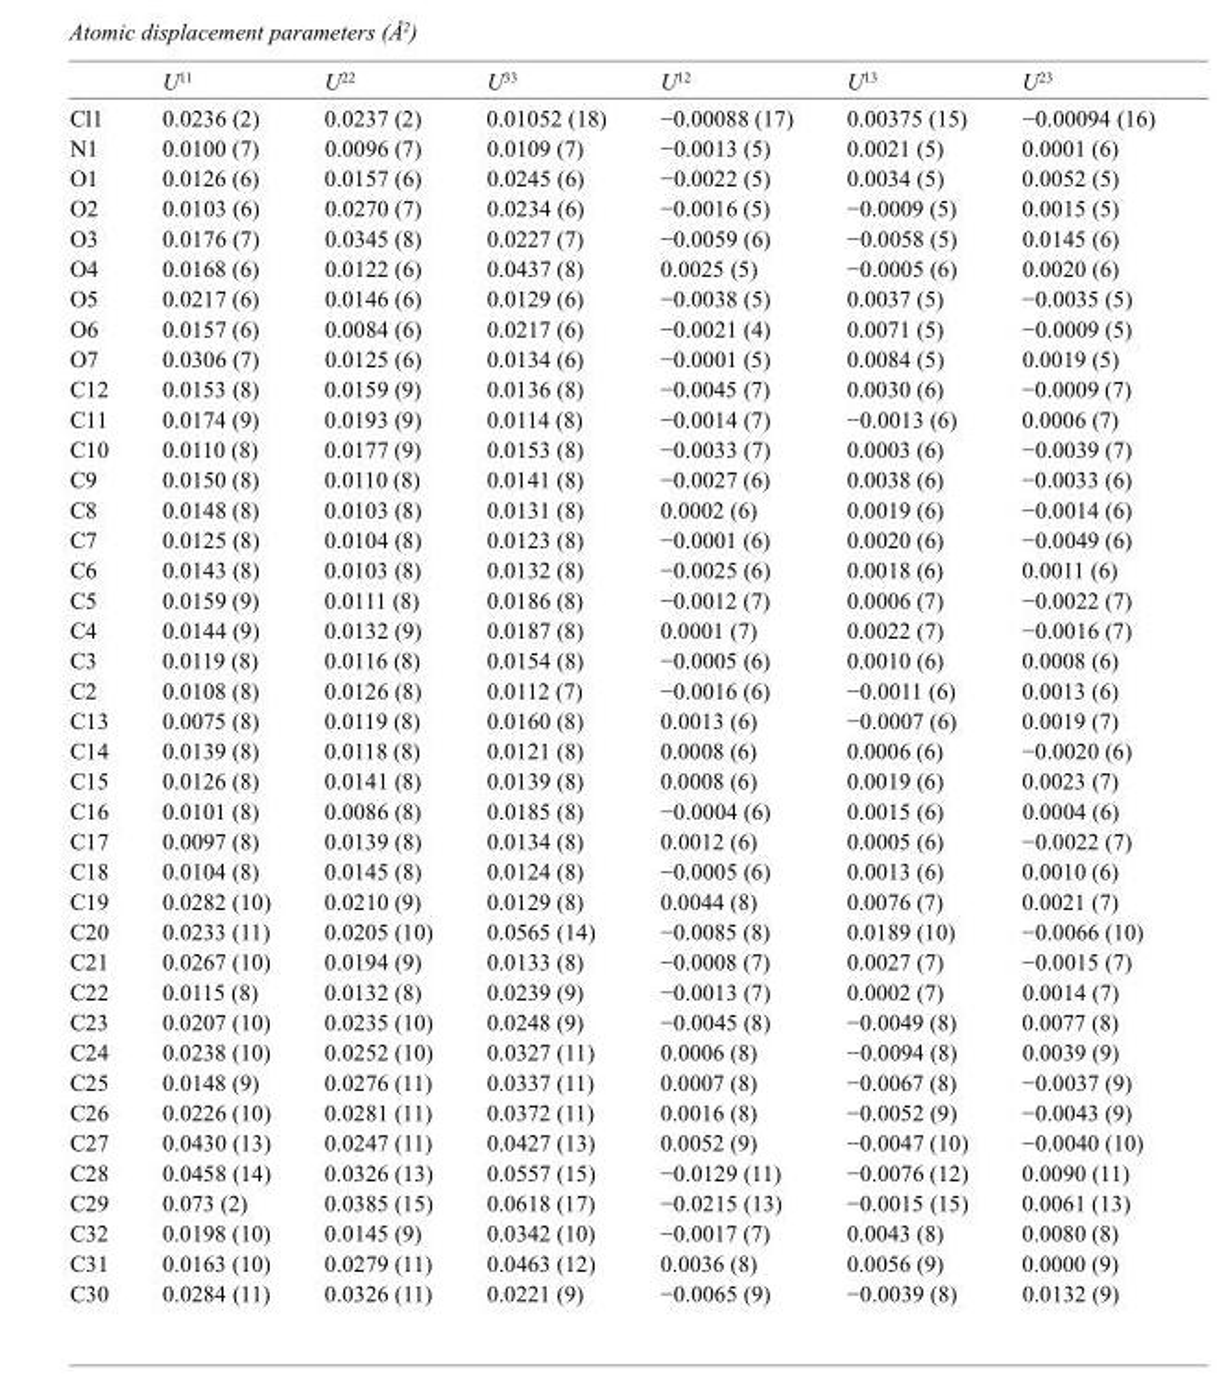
<table><thead><tr><td></td><td>U<sup>11</sup></td><td>U<sup>22</sup></td><td>U<sup>33</sup></td><td>U<sup>12</sup></td><td>U<sup>13</sup></td><td>U<sup>23</sup></td></tr></thead><tbody><tr><td>Cl1</td><td>0.0236 (2)</td><td>0.0237 (2)</td><td>0.01052 (18)</td><td>−0.00088 (17)</td><td>0.00375 (15)</td><td>−0.00094 (16)</td></tr><tr><td>N1</td><td>0.0100 (7)</td><td>0.0096 (7)</td><td>0.0109 (7)</td><td>−0.0013 (5)</td><td>0.0021 (5)</td><td>0.0001 (6)</td></tr><tr><td>O1</td><td>0.0126 (6)</td><td>0.0157 (6)</td><td>0.0245 (6)</td><td>−0.0022 (5)</td><td>0.0034 (5)</td><td>0.0052 (5)</td></tr><tr><td>O2</td><td>0.0103 (6)</td><td>0.0270 (7)</td><td>0.0234 (6)</td><td>−0.0016 (5)</td><td>−0.0009 (5)</td><td>0.0015 (5)</td></tr><tr><td>O3</td><td>0.0176 (7)</td><td>0.0345 (8)</td><td>0.0227 (7)</td><td>−0.0059 (6)</td><td>−0.0058 (5)</td><td>0.0145 (6)</td></tr><tr><td>O4</td><td>0.0168 (6)</td><td>0.0122 (6)</td><td>0.0437 (8)</td><td>0.0025 (5)</td><td>−0.0005 (6)</td><td>0.0020 (6)</td></tr><tr><td>O5</td><td>0.0217 (6)</td><td>0.0146 (6)</td><td>0.0129 (6)</td><td>−0.0038 (5)</td><td>0.0037 (5)</td><td>−0.0035 (5)</td></tr><tr><td>O6</td><td>0.0157 (6)</td><td>0.0084 (6)</td><td>0.0217 (6)</td><td>−0.0021 (4)</td><td>0.0071 (5)</td><td>−0.0009 (5)</td></tr><tr><td>O7</td><td>0.0306 (7)</td><td>0.0125 (6)</td><td>0.0134 (6)</td><td>−0.0001 (5)</td><td>0.0084 (5)</td><td>0.0019 (5)</td></tr><tr><td>C12</td><td>0.0153 (8)</td><td>0.0159 (9)</td><td>0.0136 (8)</td><td>−0.0045 (7)</td><td>0.0030 (6)</td><td>−0.0009 (7)</td></tr><tr><td>C11</td><td>0.0174 (9)</td><td>0.0193 (9)</td><td>0.0114 (8)</td><td>−0.0014 (7)</td><td>−0.0013 (6)</td><td>0.0006 (7)</td></tr><tr><td>C10</td><td>0.0110 (8)</td><td>0.0177 (9)</td><td>0.0153 (8)</td><td>−0.0033 (7)</td><td>0.0003 (6)</td><td>−0.0039 (7)</td></tr><tr><td>C9</td><td>0.0150 (8)</td><td>0.0110 (8)</td><td>0.0141 (8)</td><td>−0.0027 (6)</td><td>0.0038 (6)</td><td>−0.0033 (6)</td></tr><tr><td>C8</td><td>0.0148 (8)</td><td>0.0103 (8)</td><td>0.0131 (8)</td><td>0.0002 (6)</td><td>0.0019 (6)</td><td>−0.0014 (6)</td></tr><tr><td>C7</td><td>0.0125 (8)</td><td>0.0104 (8)</td><td>0.0123 (8)</td><td>−0.0001 (6)</td><td>0.0020 (6)</td><td>−0.0049 (6)</td></tr><tr><td>C6</td><td>0.0143 (8)</td><td>0.0103 (8)</td><td>0.0132 (8)</td><td>−0.0025 (6)</td><td>0.0018 (6)</td><td>0.0011 (6)</td></tr><tr><td>C5</td><td>0.0159 (9)</td><td>0.0111 (8)</td><td>0.0186 (8)</td><td>−0.0012 (7)</td><td>0.0006 (7)</td><td>−0.0022 (7)</td></tr><tr><td>C4</td><td>0.0144 (9)</td><td>0.0132 (9)</td><td>0.0187 (8)</td><td>0.0001 (7)</td><td>0.0022 (7)</td><td>−0.0016 (7)</td></tr><tr><td>C3</td><td>0.0119 (8)</td><td>0.0116 (8)</td><td>0.0154 (8)</td><td>−0.0005 (6)</td><td>0.0010 (6)</td><td>0.0008 (6)</td></tr><tr><td>C2</td><td>0.0108 (8)</td><td>0.0126 (8)</td><td>0.0112 (7)</td><td>−0.0016 (6)</td><td>−0.0011 (6)</td><td>0.0013 (6)</td></tr><tr><td>C13</td><td>0.0075 (8)</td><td>0.0119 (8)</td><td>0.0160 (8)</td><td>0.0013 (6)</td><td>−0.0007 (6)</td><td>0.0019 (7)</td></tr><tr><td>C14</td><td>0.0139 (8)</td><td>0.0118 (8)</td><td>0.0121 (8)</td><td>0.0008 (6)</td><td>0.0006 (6)</td><td>−0.0020 (6)</td></tr><tr><td>C15</td><td>0.0126 (8)</td><td>0.0141 (8)</td><td>0.0139 (8)</td><td>0.0008 (6)</td><td>0.0019 (6)</td><td>0.0023 (7)</td></tr><tr><td>C16</td><td>0.0101 (8)</td><td>0.0086 (8)</td><td>0.0185 (8)</td><td>−0.0004 (6)</td><td>0.0015 (6)</td><td>0.0004 (6)</td></tr><tr><td>C17</td><td>0.0097 (8)</td><td>0.0139 (8)</td><td>0.0134 (8)</td><td>0.0012 (6)</td><td>0.0005 (6)</td><td>−0.0022 (7)</td></tr><tr><td>C18</td><td>0.0104 (8)</td><td>0.0145 (8)</td><td>0.0124 (8)</td><td>−0.0005 (6)</td><td>0.0013 (6)</td><td>0.0010 (6)</td></tr><tr><td>C19</td><td>0.0282 (10)</td><td>0.0210 (9)</td><td>0.0129 (8)</td><td>0.0044 (8)</td><td>0.0076 (7)</td><td>0.0021 (7)</td></tr><tr><td>C20</td><td>0.0233 (11)</td><td>0.0205 (10)</td><td>0.0565 (14)</td><td>−0.0085 (8)</td><td>0.0189 (10)</td><td>−0.0066 (10)</td></tr><tr><td>C21</td><td>0.0267 (10)</td><td>0.0194 (9)</td><td>0.0133 (8)</td><td>−0.0008 (7)</td><td>0.0027 (7)</td><td>−0.0015 (7)</td></tr><tr><td>C22</td><td>0.0115 (8)</td><td>0.0132 (8)</td><td>0.0239 (9)</td><td>−0.0013 (7)</td><td>0.0002 (7)</td><td>0.0014 (7)</td></tr><tr><td>C23</td><td>0.0207 (10)</td><td>0.0235 (10)</td><td>0.0248 (9)</td><td>−0.0045 (8)</td><td>−0.0049 (8)</td><td>0.0077 (8)</td></tr><tr><td>C24</td><td>0.0238 (10)</td><td>0.0252 (10)</td><td>0.0327 (11)</td><td>0.0006 (8)</td><td>−0.0094 (8)</td><td>0.0039 (9)</td></tr><tr><td>C25</td><td>0.0148 (9)</td><td>0.0276 (11)</td><td>0.0337 (11)</td><td>0.0007 (8)</td><td>−0.0067 (8)</td><td>−0.0037 (9)</td></tr><tr><td>C26</td><td>0.0226 (10)</td><td>0.0281 (11)</td><td>0.0372 (11)</td><td>0.0016 (8)</td><td>−0.0052 (9)</td><td>−0.0043 (9)</td></tr><tr><td>C27</td><td>0.0430 (13)</td><td>0.0247 (11)</td><td>0.0427 (13)</td><td>0.0052 (9)</td><td>−0.0047 (10)</td><td>−0.0040 (10)</td></tr><tr><td>C28</td><td>0.0458 (14)</td><td>0.0326 (13)</td><td>0.0557 (15)</td><td>−0.0129 (11)</td><td>−0.0076 (12)</td><td>0.0090 (11)</td></tr><tr><td>C29</td><td>0.073 (2)</td><td>0.0385 (15)</td><td>0.0618 (17)</td><td>−0.0215 (13)</td><td>−0.0015 (15)</td><td>0.0061 (13)</td></tr><tr><td>C32</td><td>0.0198 (10)</td><td>0.0145 (9)</td><td>0.0342 (10)</td><td>−0.0017 (7)</td><td>0.0043 (8)</td><td>0.0080 (8)</td></tr><tr><td>C31</td><td>0.0163 (10)</td><td>0.0279 (11)</td><td>0.0463 (12)</td><td>0.0036 (8)</td><td>0.0056 (9)</td><td>0.0000 (9)</td></tr><tr><td>C30</td><td>0.0284 (11)</td><td>0.0326 (11)</td><td>0.0221 (9)</td><td>−0.0065 (9)</td><td>−0.0039 (8)</td><td>0.0132 (9)</td></tr></tbody></table>